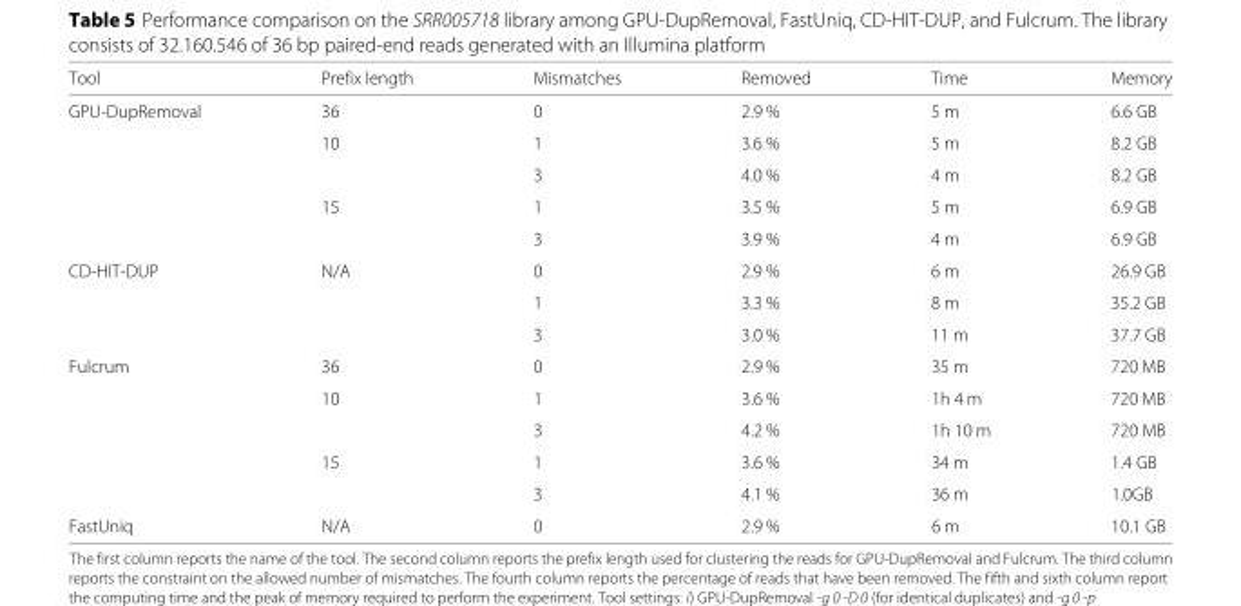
<table><thead><tr><td>Tool</td><td>Prefix length</td><td>Mismatches</td><td>Removed</td><td>Time</td><td>Memory</td></tr></thead><tbody><tr><td rowspan="5">GPU-DupRemoval</td><td>36</td><td>0</td><td>2.9 %</td><td>5 m</td><td>6.6 GB</td></tr><tr><td>10</td><td>1</td><td>3.6 %</td><td>5 m</td><td>8.2 GB</td></tr><tr><td></td><td>3</td><td>4.0 %</td><td>4 m</td><td>8.2 GB</td></tr><tr><td>15</td><td>1</td><td>3.5 %</td><td>5 m</td><td>6.9 GB</td></tr><tr><td></td><td>3</td><td>3.9 %</td><td>4 m</td><td>6.9 GB</td></tr><tr><td rowspan="3">CD-HIT-DUP</td><td>N/A</td><td>0</td><td>2.9 %</td><td>6 m</td><td>26.9 GB</td></tr><tr><td></td><td>1</td><td>3.3 %</td><td>8 m</td><td>35.2 GB</td></tr><tr><td></td><td>3</td><td>3.0 %</td><td>11 m</td><td>37.7 GB</td></tr><tr><td rowspan="5">Fulcrum</td><td>36</td><td>0</td><td>2.9 %</td><td>35 m</td><td>720 MB</td></tr><tr><td>10</td><td>1</td><td>3.6 %</td><td>1h 4 m</td><td>720 MB</td></tr><tr><td></td><td>3</td><td>4.2 %</td><td>1h 10 m</td><td>720 MB</td></tr><tr><td>15</td><td>1</td><td>3.6 %</td><td>34 m</td><td>1.4 GB</td></tr><tr><td></td><td>3</td><td>4.1 %</td><td>36 m</td><td>1.0GB</td></tr><tr><td>FastUniq</td><td>N/A</td><td>0</td><td>2.9 %</td><td>6 m</td><td>10.1 GB</td></tr></tbody></table>